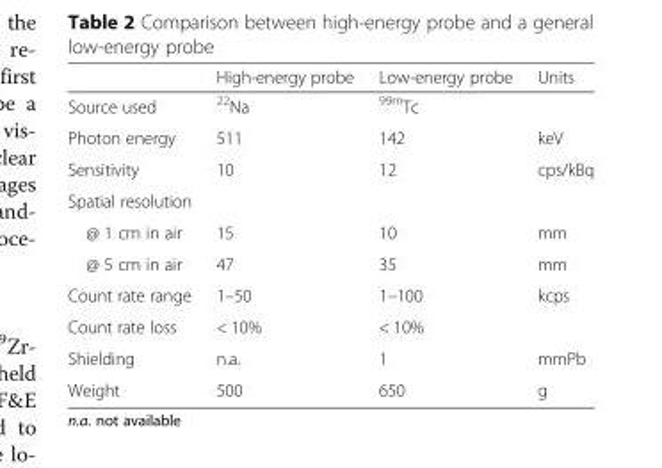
<table><thead><tr><td></td><td>High-energy probe</td><td>Low-energy probe</td><td>Units</td></tr></thead><tbody><tr><td>Source used</td><td><sup>22</sup>Na</td><td><sup>99m</sup>Tc</td><td></td></tr><tr><td>Photon energy</td><td>511</td><td>142</td><td>keV</td></tr><tr><td>Sensitivity</td><td>10</td><td>12</td><td>cps/kBq</td></tr><tr><td colspan="4">Spatial resolution</td></tr><tr><td>@ 1 cm in air</td><td>15</td><td>10</td><td>mm</td></tr><tr><td>@ 5 cm in air</td><td>47</td><td>35</td><td>mm</td></tr><tr><td>Count rate range</td><td>1–50</td><td>1–100</td><td>kcps</td></tr><tr><td>Count rate loss</td><td>&lt; 10%</td><td>&lt; 10%</td><td></td></tr><tr><td>Shielding</td><td>n.a.</td><td>1</td><td>mmPb</td></tr><tr><td>Weight</td><td>500</td><td>650</td><td>g</td></tr></tbody></table>